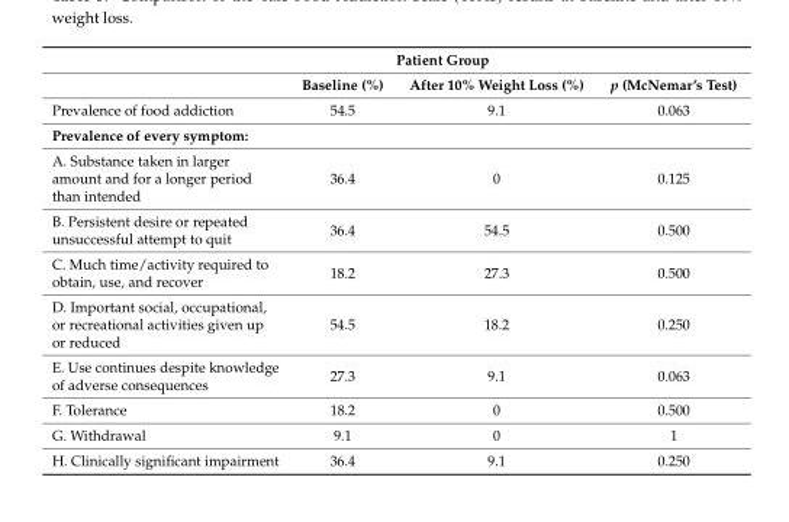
<table><thead><tr><td rowspan="2"></td><td colspan="2">Patient Group</td><td rowspan="2">p (McNemar’s Test)</td></tr><tr><td>Baseline (%)</td><td>After 10% Weight Loss (%)</td></tr></thead><tbody><tr><td>Prevalence of food addiction</td><td>54.5</td><td>9.1</td><td>0.063</td></tr><tr><td colspan="4">Prevalence of every symptom:</td></tr><tr><td>A. Substance taken in larger amount and for a longer period than intended</td><td>36.4</td><td>0</td><td>0.125</td></tr><tr><td>B. Persistent desire or repeated unsuccessful attempt to quit</td><td>36.4</td><td>54.5</td><td>0.500</td></tr><tr><td>C. Much time/activity required to obtain, use, and recover</td><td>18.2</td><td>27.3</td><td>0.500</td></tr><tr><td>D. Important social, occupational, or recreational activities given up or reduced</td><td>54.5</td><td>18.2</td><td>0.250</td></tr><tr><td>E. Use continues despite knowledge of adverse consequences</td><td>27.3</td><td>9.1</td><td>0.063</td></tr><tr><td>F. Tolerance</td><td>18.2</td><td>0</td><td>0.500</td></tr><tr><td>G. Withdrawal</td><td>9.1</td><td>0</td><td>1</td></tr><tr><td>H. Clinically significant impairment</td><td>36.4</td><td>9.1</td><td>0.250</td></tr></tbody></table>